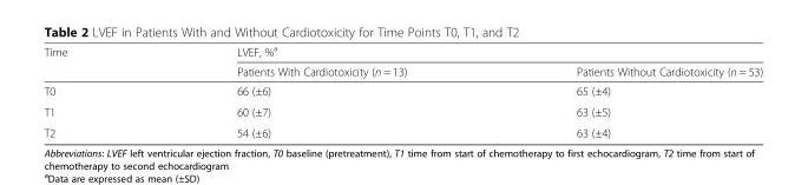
<table><thead><tr><td rowspan="2">Time</td><td colspan="2">LVEF, %<sup>a</sup></td></tr><tr><td>Patients With Cardiotoxicity (n = 13)</td><td>Patients Without Cardiotoxicity (n = 53)</td></tr></thead><tbody><tr><td>T0</td><td>66 (±6)</td><td>65 (±4)</td></tr><tr><td>T1</td><td>60 (±7)</td><td>63 (±5)</td></tr><tr><td>T2</td><td>54 (±6)</td><td>63 (±4)</td></tr></tbody></table>